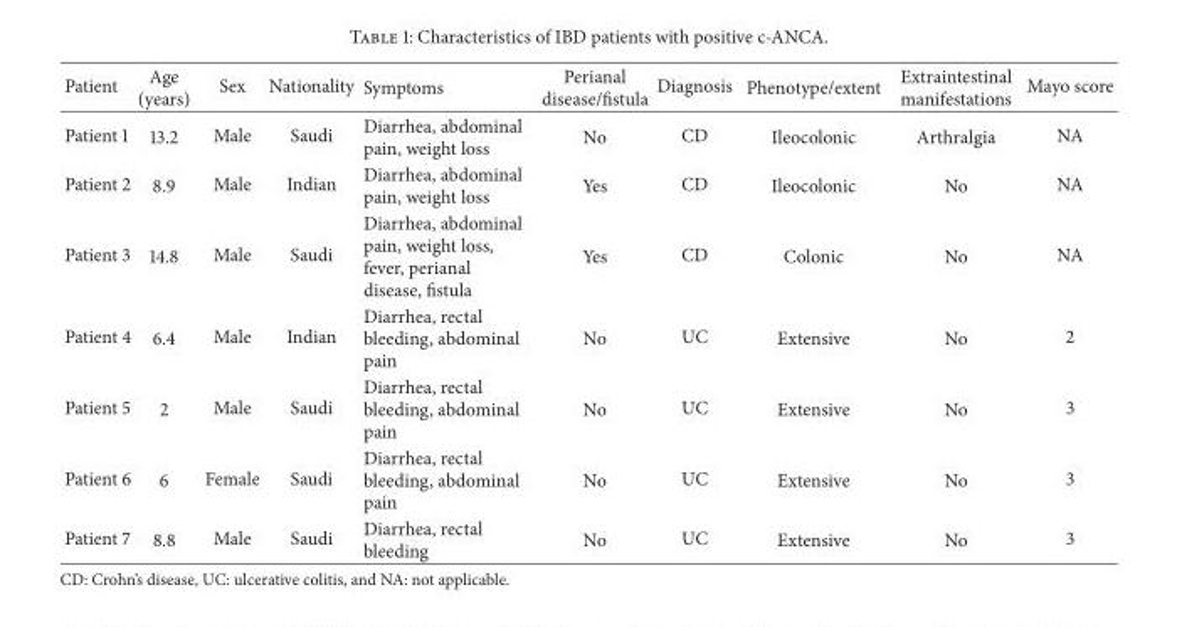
<table><thead><tr><td>Patient</td><td>Age (years)</td><td>Sex</td><td>Nationality</td><td>Symptoms</td><td>Perianal disease/fistula</td><td>Diagnosis</td><td>Phenotype/extent</td><td>Extraintestinal manifestations</td><td>Mayo score</td></tr></thead><tbody><tr><td>Patient 1</td><td>13.2</td><td>Male</td><td>Saudi</td><td>Diarrhea, abdominal pain, weight loss</td><td>No</td><td>CD</td><td>Ileocolonic</td><td>Arthralgia</td><td>NA</td></tr><tr><td>Patient 2</td><td>8.9</td><td>Male</td><td>Indian</td><td>Diarrhea, abdominal pain, weight loss</td><td>Yes</td><td>CD</td><td>Ileocolonic</td><td>No</td><td>NA</td></tr><tr><td>Patient 3</td><td>14.8</td><td>Male</td><td>Saudi</td><td>Diarrhea, abdominal pain, weight loss, fever, perianal disease, fistula</td><td>Yes</td><td>CD</td><td>Colonic</td><td>No</td><td>NA</td></tr><tr><td>Patient 4</td><td>6.4</td><td>Male</td><td>Indian</td><td>Diarrhea, rectal bleeding, abdominal pain</td><td>No</td><td>UC</td><td>Extensive</td><td>No</td><td>2</td></tr><tr><td>Patient 5</td><td>2</td><td>Male</td><td>Saudi</td><td>Diarrhea, rectal bleeding, abdominal pain</td><td>No</td><td>UC</td><td>Extensive</td><td>No</td><td>3</td></tr><tr><td>Patient 6</td><td>6</td><td>Female</td><td>Saudi</td><td>Diarrhea, rectal bleeding, abdominal pain</td><td>No</td><td>UC</td><td>Extensive</td><td>No</td><td>3</td></tr><tr><td>Patient 7</td><td>8.8</td><td>Male</td><td>Saudi</td><td>Diarrhea, rectal bleeding</td><td>No</td><td>UC</td><td>Extensive</td><td>No</td><td>3</td></tr></tbody></table>